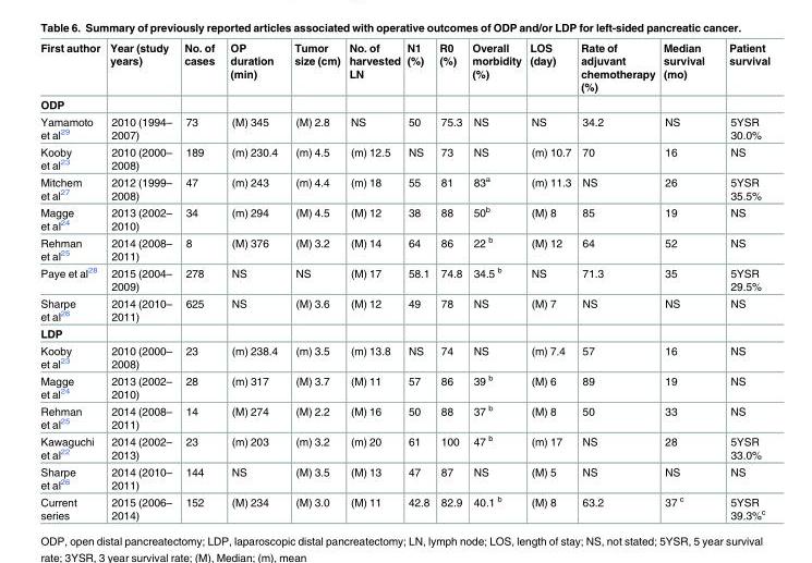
<table><thead><tr><td>First author</td><td>Year (study years)</td><td>No. of cases</td><td>OP duration (min)</td><td>Tumor size (cm)</td><td>No. of harvested LN</td><td>N1 (%)</td><td>R0 (%)</td><td>Overall morbidity (%)</td><td>LOS (day)</td><td>Rate of adjuvant chemotherapy (%)</td><td>Median survival (mo)</td><td>Patient survival</td></tr></thead><tbody><tr><td colspan="13">ODP</td></tr><tr><td>Yamamoto et al<sup>29</sup></td><td>2010 (1994– 2007)</td><td>73</td><td>(M) 345</td><td>(M) 2.8</td><td>NS</td><td>50</td><td>75.3</td><td>NS</td><td>NS</td><td>34.2</td><td>NS</td><td>5YSR 30.0%</td></tr><tr><td>Kooby et al<sup>23</sup></td><td>2010 (2000– 2008)</td><td>189</td><td>(m) 230.4</td><td>(m) 4.5</td><td>(m) 12.5</td><td>NS</td><td>73</td><td>NS</td><td>(m) 10.7</td><td>70</td><td>16</td><td>NS</td></tr><tr><td>Mitchem et al<sup>27</sup></td><td>2012 (1999– 2008)</td><td>47</td><td>(m) 243</td><td>(m) 4.4</td><td>(m) 18</td><td>55</td><td>81</td><td>83<sup>a</sup></td><td>(m) 11.3</td><td>NS</td><td>26</td><td>5YSR 35.5%</td></tr><tr><td>Magge et al<sup>24</sup></td><td>2013 (2002– 2010)</td><td>34</td><td>(m) 294</td><td>(M) 4.5</td><td>(M) 12</td><td>38</td><td>88</td><td>50<sup>b</sup></td><td>(M) 8</td><td>85</td><td>19</td><td>NS</td></tr><tr><td>Rehman et al<sup>25</sup></td><td>2014 (2008– 2011)</td><td>8</td><td>(M) 376</td><td>(M) 3.2</td><td>(M) 14</td><td>64</td><td>86</td><td>22 <sup>b</sup></td><td>(M) 12</td><td>64</td><td>52</td><td>NS</td></tr><tr><td>Paye et al<sup>28</sup></td><td>2015 (2004– 2009)</td><td>278</td><td>NS</td><td>NS</td><td>(M) 17</td><td>58.1</td><td>74.8</td><td>34.5 <sup>b</sup></td><td>NS</td><td>71.3</td><td>35</td><td>5YSR 29.5%</td></tr><tr><td>Sharpe et al<sup>26</sup></td><td>2014 (2010– 2011)</td><td>625</td><td>NS</td><td>(M) 3.6</td><td>(M) 12</td><td>49</td><td>78</td><td>NS</td><td>(M) 7</td><td>NS</td><td>NS</td><td>NS</td></tr><tr><td colspan="13">LDP</td></tr><tr><td>Kooby et al<sup>23</sup></td><td>2010 (2000– 2008)</td><td>23</td><td>(m) 238.4</td><td>(m) 3.5</td><td>(m) 13.8</td><td>NS</td><td>74</td><td>NS</td><td>(m) 7.4</td><td>57</td><td>16</td><td>NS</td></tr><tr><td>Magge et al<sup>24</sup></td><td>2013 (2002– 2010)</td><td>28</td><td>(m) 317</td><td>(M) 3.7</td><td>(M) 11</td><td>57</td><td>86</td><td>39 <sup>b</sup></td><td>(M) 6</td><td>89</td><td>19</td><td>NS</td></tr><tr><td>Rehman et al<sup>25</sup></td><td>2014 (2008– 2011)</td><td>14</td><td>(M) 274</td><td>(M) 2.2</td><td>(M) 16</td><td>50</td><td>88</td><td>37 <sup>b</sup></td><td>(M) 8</td><td>50</td><td>33</td><td>NS</td></tr><tr><td>Kawaguchi et al<sup>22</sup></td><td>2014 (2002– 2013)</td><td>23</td><td>(m) 203</td><td>(m) 3.2</td><td>(m) 20</td><td>61</td><td>100</td><td>47 <sup>b</sup></td><td>(m) 17</td><td>NS</td><td>28</td><td>5YSR 33.0%</td></tr><tr><td>Sharpe et al<sup>26</sup></td><td>2014 (2010– 2011)</td><td>144</td><td>NS</td><td>(M) 3.5</td><td>(M) 13</td><td>47</td><td>87</td><td>NS</td><td>(M) 5</td><td>NS</td><td>NS</td><td>NS</td></tr><tr><td>Current series</td><td>2015 (2006– 2014)</td><td>152</td><td>(M) 234</td><td>(M) 3.0</td><td>(M) 11</td><td>42.8</td><td>82.9</td><td>40.1 <sup>b</sup></td><td>(M) 8</td><td>63.2</td><td>37 <sup>c</sup></td><td>5YSR 39.3%<sup>c</sup></td></tr></tbody></table>